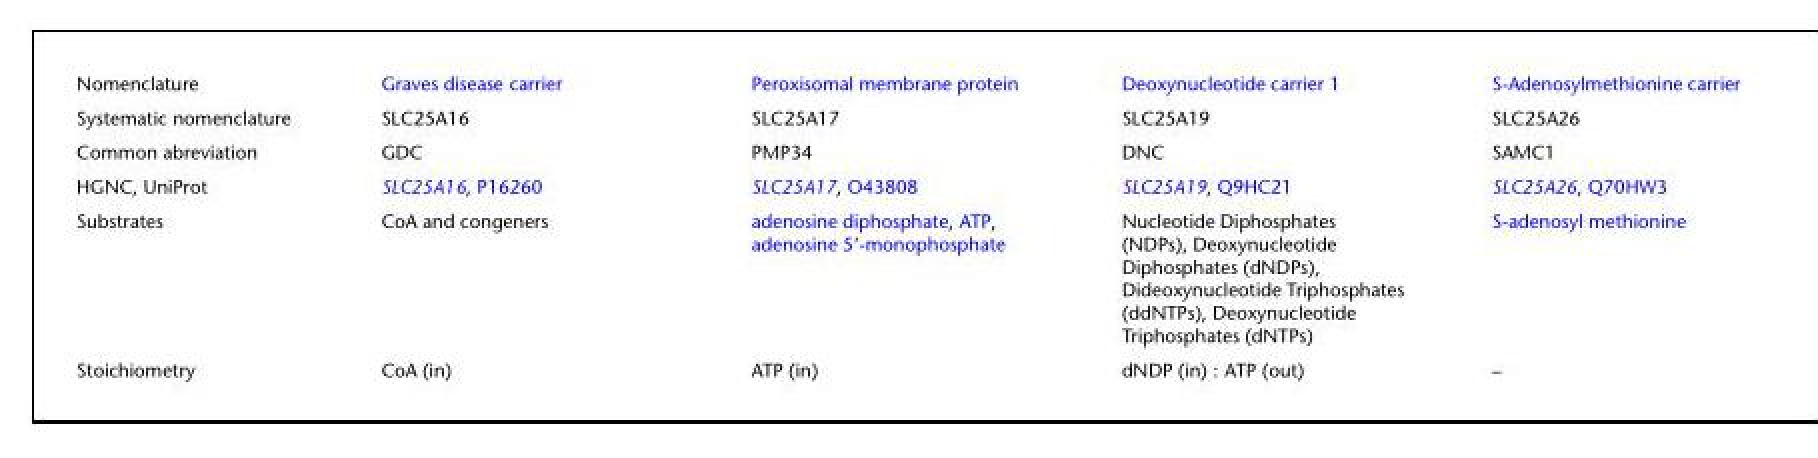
<table><tbody><tr><td>Nomenclature</td><td>Graves disease carrier</td><td>Peroxisomal membrane protein</td><td>Deoxynucleotide carrier 1</td><td>S-Adenosylmethionine carrier</td></tr><tr><td>Systematic nomenclature</td><td>SLC25A16</td><td>SLC25A17</td><td>SLC25A19</td><td>SLC25A26</td></tr><tr><td>Common abreviation</td><td>GDC</td><td>PMP34</td><td>DNC</td><td>SAMC1</td></tr><tr><td>HGNC, UniProt</td><td>SLC25A16, P16260</td><td>SLC25A17, O43808</td><td>SLC25A19, Q9HC21</td><td>SLC25A26, Q70HW3</td></tr><tr><td>Substrates</td><td>CoA and congeners</td><td>adenosine diphosphate, ATP, adenosine 5’-monophosphate</td><td>Nucleotide Diphosphates (NDPs), Deoxynucleotide Diphosphates (dNDPs), Dideoxynucleotide Triphosphates (ddNTPs), Deoxynucleotide Triphosphates (dNTPs)</td><td>S-adenosyl methionine</td></tr><tr><td>Stoichiometry</td><td>CoA (in)</td><td>ATP (in)</td><td>dNDP (in) : ATP (out)</td><td>–</td></tr></tbody></table>